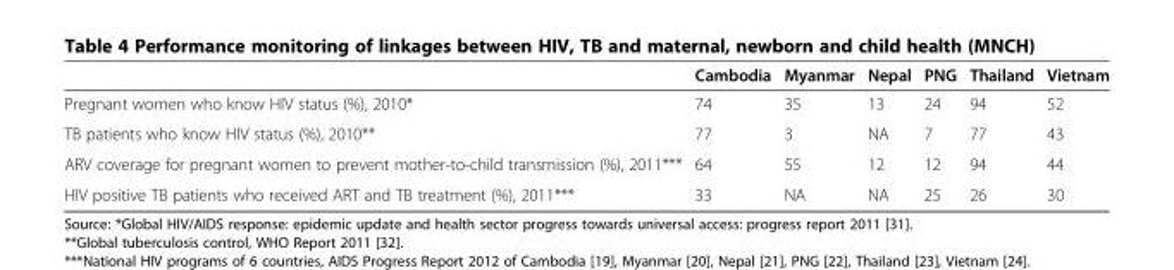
<table><thead><tr><td></td><td>Cambodia</td><td>Myanmar</td><td>Nepal</td><td>PNG</td><td>Thailand</td><td>Vietnam</td></tr></thead><tbody><tr><td>Pregnant women who know HIV status (%), 2010*</td><td>74</td><td>35</td><td>13</td><td>24</td><td>94</td><td>52</td></tr><tr><td>TB patients who know HIV status (%), 2010**</td><td>77</td><td>3</td><td>NA</td><td>7</td><td>77</td><td>43</td></tr><tr><td>ARV coverage for pregnant women to prevent mother-to-child transmission (%), 2011***</td><td>64</td><td>55</td><td>12</td><td>12</td><td>94</td><td>44</td></tr><tr><td>HIV positive TB patients who received ART and TB treatment (%), 2011***</td><td>33</td><td>NA</td><td>NA</td><td>25</td><td>26</td><td>30</td></tr></tbody></table>